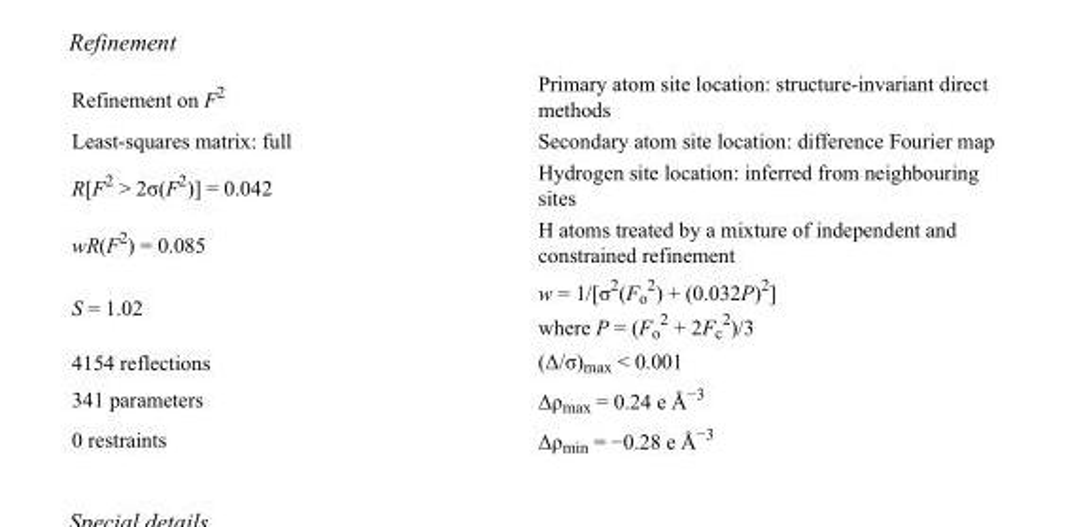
<table><tbody><tr><td>Refinement on F<sup>2</sup></td><td>Primary atom site location: structure-invariant direct methods</td></tr><tr><td>Least-squares matrix: full</td><td>Secondary atom site location: difference Fourier map</td></tr><tr><td>R[F<sup>2</sup> &gt; 2σ(F<sup>2</sup>)] = 0.042</td><td>Hydrogen site location: inferred from neighbouring sites</td></tr><tr><td>wR(F<sup>2</sup>) = 0.085</td><td>H atoms treated by a mixture of independent and constrained refinement</td></tr><tr><td>S = 1.02</td><td>w = 1/[σ<sup>2</sup>(F<sub>o</sub> <sup>2</sup>) + (0.032P)<sup>2</sup>] where P = (F<sub>o</sub> <sup>2</sup> + 2F<sub>c</sub> <sup>2</sup>)/3</td></tr><tr><td>4154 reflections</td><td>(Δ/σ)<sub>max</sub> &lt; 0.001</td></tr><tr><td>341 parameters</td><td>Δρ<sub>max</sub> = 0.24 e Å<sup>−3</sup></td></tr><tr><td>0 restraints</td><td>Δρ<sub>min</sub> = −0.28 e Å<sup>−3</sup></td></tr></tbody></table>